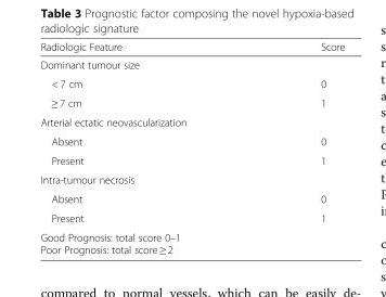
<table><thead><tr><td>Radiologic Feature</td><td>Score</td></tr></thead><tbody><tr><td colspan="2">Dominant tumour size</td></tr><tr><td>&lt; 7 cm</td><td>0</td></tr><tr><td>≥ 7 cm</td><td>1</td></tr><tr><td colspan="2">Arterial ectatic neovascularization</td></tr><tr><td>Absent</td><td>0</td></tr><tr><td>Present</td><td>1</td></tr><tr><td colspan="2">Intra-tumour necrosis</td></tr><tr><td>Absent</td><td>0</td></tr><tr><td>Present</td><td>1</td></tr><tr><td colspan="2">Good Prognosis: total score 0–1 Poor Prognosis: total score ≥ 2</td></tr></tbody></table>